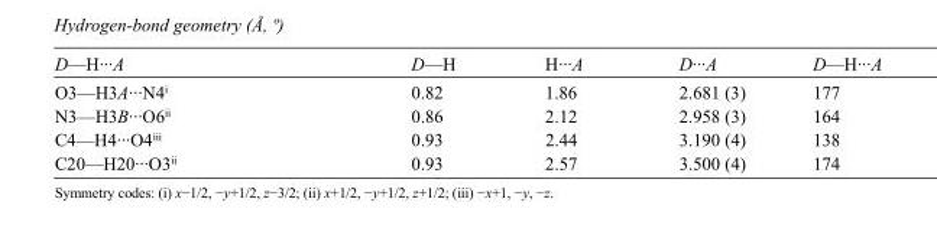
<table><tbody><tr><td>D—H···A</td><td>D—H</td><td>H···A</td><td>D···A</td><td>D—H···A</td></tr><tr><td>O3—H3A···N4<sup>i</sup></td><td>0.82</td><td>1.86</td><td>2.681 (3)</td><td>177</td></tr><tr><td>N3—H3B···O6<sup>ii</sup></td><td>0.86</td><td>2.12</td><td>2.958 (3)</td><td>164</td></tr><tr><td>C4—H4···O4<sup>iii</sup></td><td>0.93</td><td>2.44</td><td>3.190 (4)</td><td>138</td></tr><tr><td>C20—H20···O3<sup>ii</sup></td><td>0.93</td><td>2.57</td><td>3.500 (4)</td><td>174</td></tr></tbody></table>